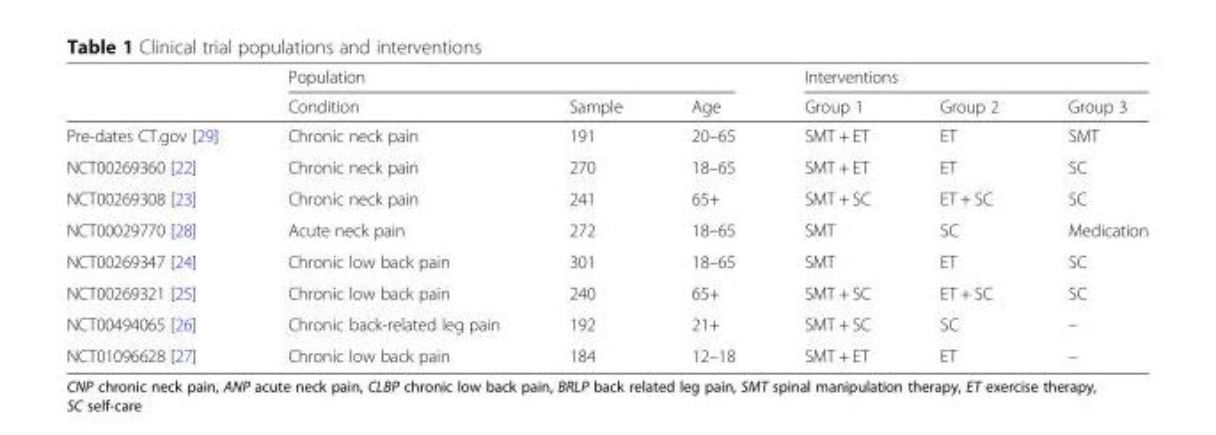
<table><thead><tr><td rowspan="2"></td><td colspan="3">Population</td><td colspan="3">Interventions</td></tr><tr><td>Condition</td><td>Sample</td><td>Age</td><td>Group 1</td><td>Group 2</td><td>Group 3</td></tr></thead><tbody><tr><td>Pre-dates CT.gov [29]</td><td>Chronic neck pain</td><td>191</td><td>20–65</td><td>SMT + ET</td><td>ET</td><td>SMT</td></tr><tr><td>NCT00269360 [22]</td><td>Chronic neck pain</td><td>270</td><td>18–65</td><td>SMT + ET</td><td>ET</td><td>SC</td></tr><tr><td>NCT00269308 [23]</td><td>Chronic neck pain</td><td>241</td><td>65+</td><td>SMT + SC</td><td>ET + SC</td><td>SC</td></tr><tr><td>NCT00029770 [28]</td><td>Acute neck pain</td><td>272</td><td>18–65</td><td>SMT</td><td>SC</td><td>Medication</td></tr><tr><td>NCT00269347 [24]</td><td>Chronic low back pain</td><td>301</td><td>18–65</td><td>SMT</td><td>ET</td><td>SC</td></tr><tr><td>NCT00269321 [25]</td><td>Chronic low back pain</td><td>240</td><td>65+</td><td>SMT + SC</td><td>ET + SC</td><td>SC</td></tr><tr><td>NCT00494065 [26]</td><td>Chronic back-related leg pain</td><td>192</td><td>21+</td><td>SMT + SC</td><td>SC</td><td>–</td></tr><tr><td>NCT01096628 [27]</td><td>Chronic low back pain</td><td>184</td><td>12–18</td><td>SMT + ET</td><td>ET</td><td>–</td></tr></tbody></table>